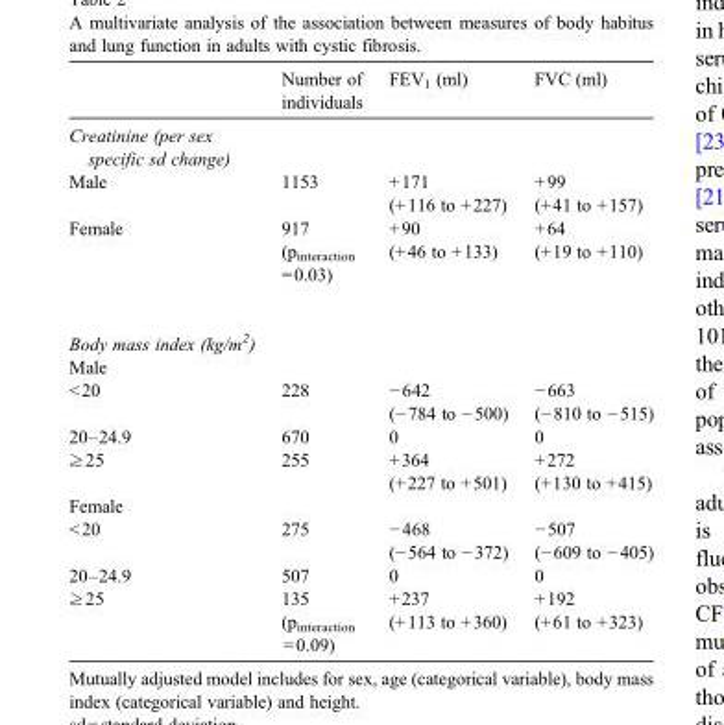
<table><thead><tr><td></td><td>Number of individuals</td><td>FEV<sub>1</sub> (ml)</td><td>FVC (ml)</td></tr></thead><tbody><tr><td colspan="4">Creatinine (per sex specific sd change)</td></tr><tr><td>Male</td><td>1153</td><td>+171 (+116 to +227)</td><td>+99 (+41 to +157)</td></tr><tr><td>Female</td><td>917 (p<sub>interaction</sub> =0.03)</td><td>+90 (+46 to +133)</td><td>+64 (+19 to +110)</td></tr><tr><td colspan="4">Body mass index (kg/m<sup>2</sup>)</td></tr><tr><td colspan="4">Male</td></tr><tr><td>&lt;20</td><td>228</td><td>−642 (−784 to −500)</td><td>−663 (−810 to −515)</td></tr><tr><td>20–24.9</td><td>670</td><td>0</td><td>0</td></tr><tr><td>≥25</td><td>255</td><td>+364 (+227 to +501)</td><td>+272 (+130 to +415)</td></tr><tr><td colspan="4">Female</td></tr><tr><td>&lt;20</td><td>275</td><td>−468 (−564 to −372)</td><td>−507 (−609 to −405)</td></tr><tr><td>20–24.9</td><td>507</td><td>0</td><td>0</td></tr><tr><td>≥25</td><td>135 (p<sub>interaction</sub> =0.09)</td><td>+237 (+113 to +360)</td><td>+192 (+61 to +323)</td></tr></tbody></table>